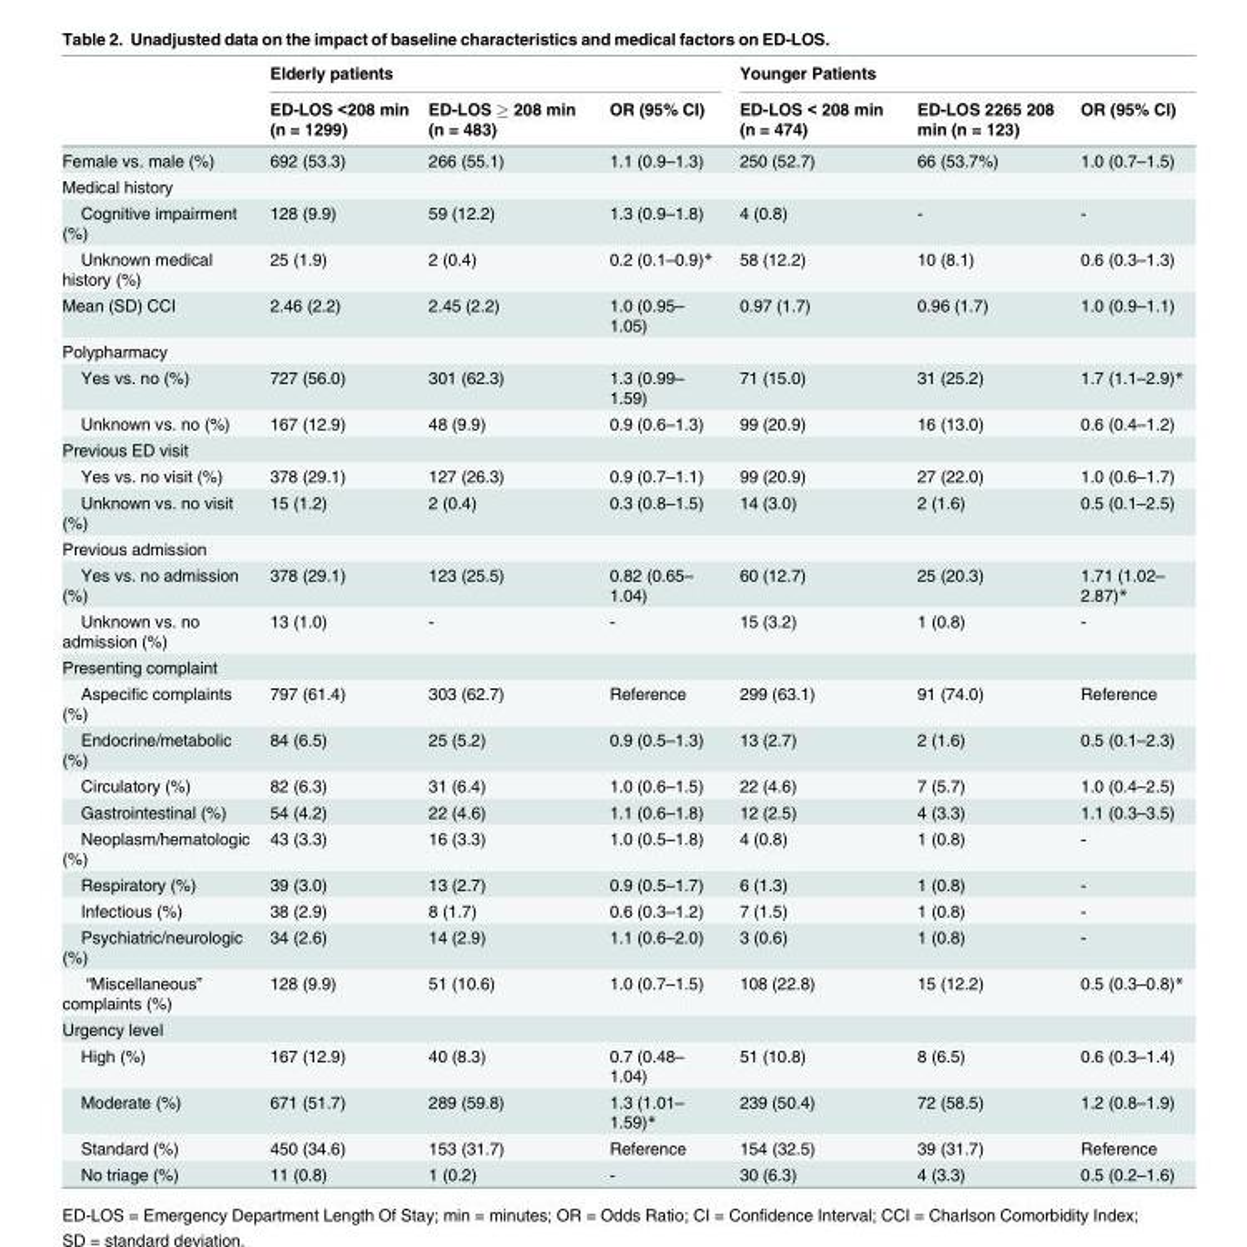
<table><thead><tr><td rowspan="2"></td><td colspan="3">Elderly patients</td><td colspan="3">Younger Patients</td></tr><tr><td>ED-LOS &lt;208 min (n = 1299)</td><td>ED-LOS ≥ 208 min (n = 483)</td><td>OR (95% CI)</td><td>ED-LOS &lt; 208 min (n = 474)</td><td>ED-LOS 2265 208 min (n = 123)</td><td>OR (95% CI)</td></tr></thead><tbody><tr><td>Female vs. male (%)</td><td>692 (53.3)</td><td>266 (55.1)</td><td>1.1 (0.9–1.3)</td><td>250 (52.7)</td><td>66 (53.7%)</td><td>1.0 (0.7–1.5)</td></tr><tr><td colspan="7">Medical history</td></tr><tr><td>Cognitive impairment (%)</td><td>128 (9.9)</td><td>59 (12.2)</td><td>1.3 (0.9–1.8)</td><td>4 (0.8)</td><td>-</td><td>-</td></tr><tr><td>Unknown medical history (%)</td><td>25 (1.9)</td><td>2 (0.4)</td><td>0.2 (0.1–0.9)*</td><td>58 (12.2)</td><td>10 (8.1)</td><td>0.6 (0.3–1.3)</td></tr><tr><td>Mean (SD) CCI</td><td>2.46 (2.2)</td><td>2.45 (2.2)</td><td>1.0 (0.95– 1.05)</td><td>0.97 (1.7)</td><td>0.96 (1.7)</td><td>1.0 (0.9–1.1)</td></tr><tr><td colspan="7">Polypharmacy</td></tr><tr><td>Yes vs. no (%)</td><td>727 (56.0)</td><td>301 (62.3)</td><td>1.3 (0.99– 1.59)</td><td>71 (15.0)</td><td>31 (25.2)</td><td>1.7 (1.1–2.9)*</td></tr><tr><td>Unknown vs. no (%)</td><td>167 (12.9)</td><td>48 (9.9)</td><td>0.9 (0.6–1.3)</td><td>99 (20.9)</td><td>16 (13.0)</td><td>0.6 (0.4–1.2)</td></tr><tr><td colspan="7">Previous ED visit</td></tr><tr><td>Yes vs. no visit (%)</td><td>378 (29.1)</td><td>127 (26.3)</td><td>0.9 (0.7–1.1)</td><td>99 (20.9)</td><td>27 (22.0)</td><td>1.0 (0.6–1.7)</td></tr><tr><td>Unknown vs. no visit (%)</td><td>15 (1.2)</td><td>2 (0.4)</td><td>0.3 (0.8–1.5)</td><td>14 (3.0)</td><td>2 (1.6)</td><td>0.5 (0.1–2.5)</td></tr><tr><td colspan="7">Previous admission</td></tr><tr><td>Yes vs. no admission (%)</td><td>378 (29.1)</td><td>123 (25.5)</td><td>0.82 (0.65– 1.04)</td><td>60 (12.7)</td><td>25 (20.3)</td><td>1.71 (1.02– 2.87)*</td></tr><tr><td>Unknown vs. no admission (%)</td><td>13 (1.0)</td><td>-</td><td>-</td><td>15 (3.2)</td><td>1 (0.8)</td><td>-</td></tr><tr><td colspan="7">Presenting complaint</td></tr><tr><td>Aspecific complaints (%)</td><td>797 (61.4)</td><td>303 (62.7)</td><td>Reference</td><td>299 (63.1)</td><td>91 (74.0)</td><td>Reference</td></tr><tr><td>Endocrine/metabolic (%)</td><td>84 (6.5)</td><td>25 (5.2)</td><td>0.9 (0.5–1.3)</td><td>13 (2.7)</td><td>2 (1.6)</td><td>0.5 (0.1–2.3)</td></tr><tr><td>Circulatory (%)</td><td>82 (6.3)</td><td>31 (6.4)</td><td>1.0 (0.6–1.5)</td><td>22 (4.6)</td><td>7 (5.7)</td><td>1.0 (0.4–2.5)</td></tr><tr><td>Gastrointestinal (%)</td><td>54 (4.2)</td><td>22 (4.6)</td><td>1.1 (0.6–1.8)</td><td>12 (2.5)</td><td>4 (3.3)</td><td>1.1 (0.3–3.5)</td></tr><tr><td>Neoplasm/hematologic (%)</td><td>43 (3.3)</td><td>16 (3.3)</td><td>1.0 (0.5–1.8)</td><td>4 (0.8)</td><td>1 (0.8)</td><td>-</td></tr><tr><td>Respiratory (%)</td><td>39 (3.0)</td><td>13 (2.7)</td><td>0.9 (0.5–1.7)</td><td>6 (1.3)</td><td>1 (0.8)</td><td>-</td></tr><tr><td>Infectious (%)</td><td>38 (2.9)</td><td>8 (1.7)</td><td>0.6 (0.3–1.2)</td><td>7 (1.5)</td><td>1 (0.8)</td><td>-</td></tr><tr><td>Psychiatric/neurologic (%)</td><td>34 (2.6)</td><td>14 (2.9)</td><td>1.1 (0.6–2.0)</td><td>3 (0.6)</td><td>1 (0.8)</td><td>-</td></tr><tr><td>“Miscellaneous” complaints (%)</td><td>128 (9.9)</td><td>51 (10.6)</td><td>1.0 (0.7–1.5)</td><td>108 (22.8)</td><td>15 (12.2)</td><td>0.5 (0.3–0.8)*</td></tr><tr><td colspan="7">Urgency level</td></tr><tr><td>High (%)</td><td>167 (12.9)</td><td>40 (8.3)</td><td>0.7 (0.48– 1.04)</td><td>51 (10.8)</td><td>8 (6.5)</td><td>0.6 (0.3–1.4)</td></tr><tr><td>Moderate (%)</td><td>671 (51.7)</td><td>289 (59.8)</td><td>1.3 (1.01– 1.59)*</td><td>239 (50.4)</td><td>72 (58.5)</td><td>1.2 (0.8–1.9)</td></tr><tr><td>Standard (%)</td><td>450 (34.6)</td><td>153 (31.7)</td><td>Reference</td><td>154 (32.5)</td><td>39 (31.7)</td><td>Reference</td></tr><tr><td>No triage (%)</td><td>11 (0.8)</td><td>1 (0.2)</td><td>-</td><td>30 (6.3)</td><td>4 (3.3)</td><td>0.5 (0.2–1.6)</td></tr></tbody></table>